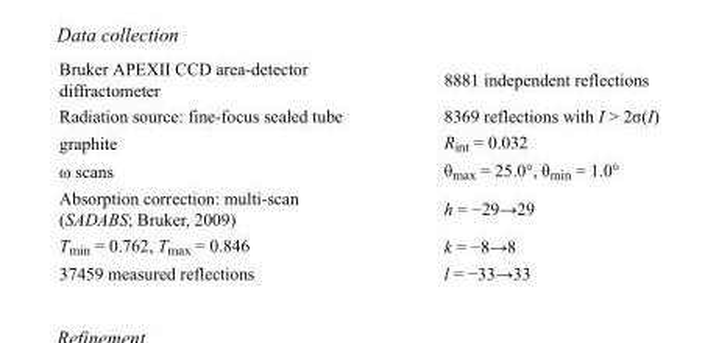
<table><tbody><tr><td>Bruker APEXII CCD area-detector diffractometer</td><td>8881 independent reflections</td></tr><tr><td>Radiation source: fine-focus sealed tube</td><td>8369 reflections with I &gt; 2σ(I)</td></tr><tr><td>graphite</td><td>R<sub>int</sub> = 0.032</td></tr><tr><td>ω scans</td><td>θ<sub>max</sub> = 25.0°, θ<sub>min</sub> = 1.0°</td></tr><tr><td>Absorption correction: multi-scan (SADABS; Bruker, 2009)</td><td>h = −29→29</td></tr><tr><td>T<sub>min</sub> = 0.762, T<sub>max</sub> = 0.846</td><td>k = −8→8</td></tr><tr><td>37459 measured reflections</td><td>l = −33→33</td></tr></tbody></table>